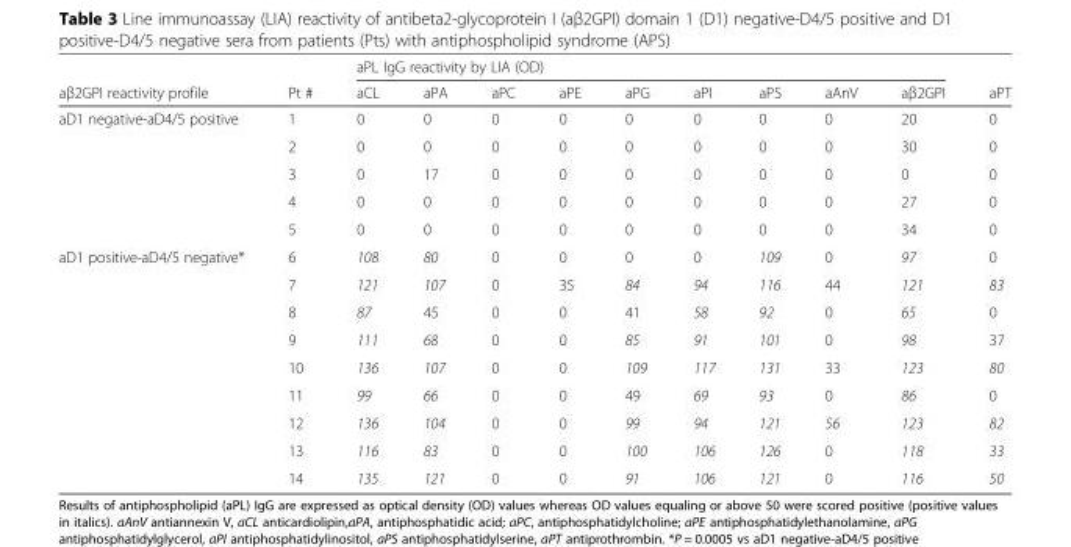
<table><thead><tr><td rowspan="2">aβ2GPI reactivity profile</td><td rowspan="2">Pt #</td><td colspan="9">aPL IgG reactivity by LIA (OD)</td><td rowspan="2">aPT</td></tr><tr><td>aCL</td><td>aPA</td><td>aPC</td><td>aPE</td><td>aPG</td><td>aPI</td><td>aPS</td><td>aAnV</td><td>aβ2GPI</td></tr></thead><tbody><tr><td rowspan="5">aD1 negative-aD4/5 positive</td><td>1</td><td>0</td><td>0</td><td>0</td><td>0</td><td>0</td><td>0</td><td>0</td><td>0</td><td>20</td><td>0</td></tr><tr><td>2</td><td>0</td><td>0</td><td>0</td><td>0</td><td>0</td><td>0</td><td>0</td><td>0</td><td>30</td><td>0</td></tr><tr><td>3</td><td>0</td><td>17</td><td>0</td><td>0</td><td>0</td><td>0</td><td>0</td><td>0</td><td>0</td><td>0</td></tr><tr><td>4</td><td>0</td><td>0</td><td>0</td><td>0</td><td>0</td><td>0</td><td>0</td><td>0</td><td>27</td><td>0</td></tr><tr><td>5</td><td>0</td><td>0</td><td>0</td><td>0</td><td>0</td><td>0</td><td>0</td><td>0</td><td>34</td><td>0</td></tr><tr><td rowspan="9">aD1 positive-aD4/5 negative*</td><td>6</td><td>108</td><td>80</td><td>0</td><td>0</td><td>0</td><td>0</td><td>109</td><td>0</td><td>97</td><td>0</td></tr><tr><td>7</td><td>121</td><td>107</td><td>0</td><td>35</td><td>84</td><td>94</td><td>116</td><td>44</td><td>121</td><td>83</td></tr><tr><td>8</td><td>87</td><td>45</td><td>0</td><td>0</td><td>41</td><td>58</td><td>92</td><td>0</td><td>65</td><td>0</td></tr><tr><td>9</td><td>111</td><td>68</td><td>0</td><td>0</td><td>85</td><td>91</td><td>101</td><td>0</td><td>98</td><td>37</td></tr><tr><td>10</td><td>136</td><td>107</td><td>0</td><td>0</td><td>109</td><td>117</td><td>131</td><td>33</td><td>123</td><td>80</td></tr><tr><td>11</td><td>99</td><td>66</td><td>0</td><td>0</td><td>49</td><td>69</td><td>93</td><td>0</td><td>86</td><td>0</td></tr><tr><td>12</td><td>136</td><td>104</td><td>0</td><td>0</td><td>99</td><td>94</td><td>121</td><td>56</td><td>123</td><td>82</td></tr><tr><td>13</td><td>116</td><td>83</td><td>0</td><td>0</td><td>100</td><td>106</td><td>126</td><td>0</td><td>118</td><td>33</td></tr><tr><td>14</td><td>135</td><td>121</td><td>0</td><td>0</td><td>91</td><td>106</td><td>121</td><td>0</td><td>116</td><td>50</td></tr></tbody></table>